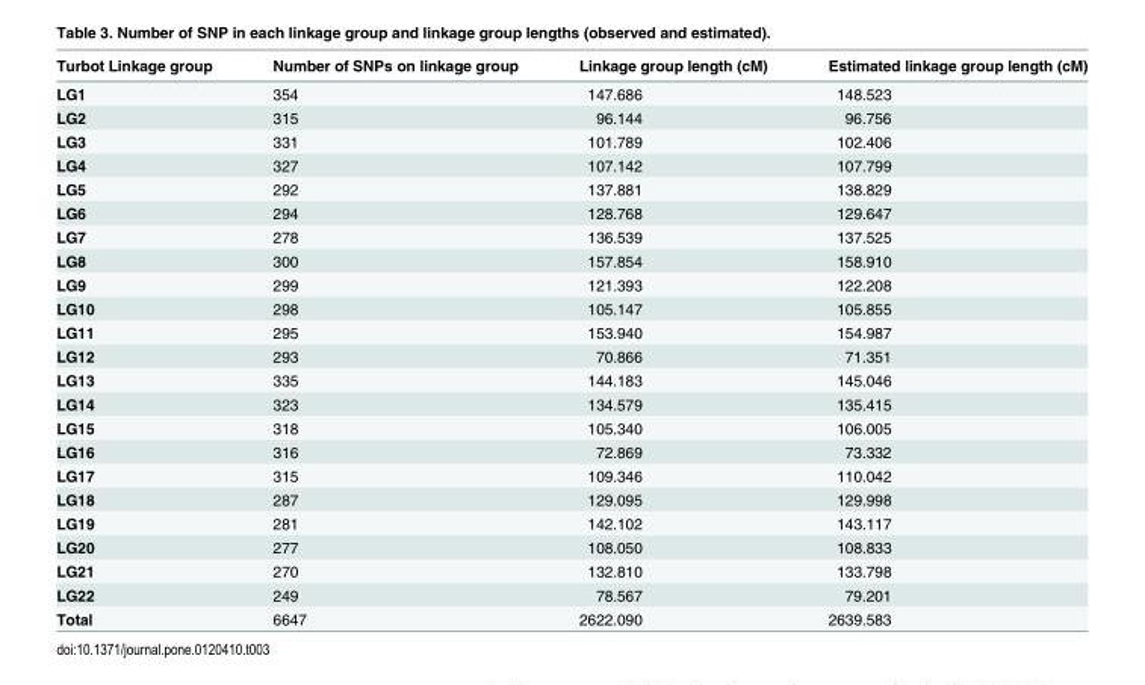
<table><thead><tr><td>Turbot Linkage group</td><td>Number of SNPs on linkage group</td><td>Linkage group length (cM)</td><td>Estimated linkage group length (cM)</td></tr></thead><tbody><tr><td>LG1</td><td>354</td><td>147.686</td><td>148.523</td></tr><tr><td>LG2</td><td>315</td><td>96.144</td><td>96.756</td></tr><tr><td>LG3</td><td>331</td><td>101.789</td><td>102.406</td></tr><tr><td>LG4</td><td>327</td><td>107.142</td><td>107.799</td></tr><tr><td>LG5</td><td>292</td><td>137.881</td><td>138.829</td></tr><tr><td>LG6</td><td>294</td><td>128.768</td><td>129.647</td></tr><tr><td>LG7</td><td>278</td><td>136.539</td><td>137.525</td></tr><tr><td>LG8</td><td>300</td><td>157.854</td><td>158.910</td></tr><tr><td>LG9</td><td>299</td><td>121.393</td><td>122.208</td></tr><tr><td>LG10</td><td>298</td><td>105.147</td><td>105.855</td></tr><tr><td>LG11</td><td>295</td><td>153.940</td><td>154.987</td></tr><tr><td>LG12</td><td>293</td><td>70.866</td><td>71.351</td></tr><tr><td>LG13</td><td>335</td><td>144.183</td><td>145.046</td></tr><tr><td>LG14</td><td>323</td><td>134.579</td><td>135.415</td></tr><tr><td>LG15</td><td>318</td><td>105.340</td><td>106.005</td></tr><tr><td>LG16</td><td>316</td><td>72.869</td><td>73.332</td></tr><tr><td>LG17</td><td>315</td><td>109.346</td><td>110.042</td></tr><tr><td>LG18</td><td>287</td><td>129.095</td><td>129.998</td></tr><tr><td>LG19</td><td>281</td><td>142.102</td><td>143.117</td></tr><tr><td>LG20</td><td>277</td><td>108.050</td><td>108.833</td></tr><tr><td>LG21</td><td>270</td><td>132.810</td><td>133.798</td></tr><tr><td>LG22</td><td>249</td><td>78.567</td><td>79.201</td></tr><tr><td>Total</td><td>6647</td><td>2622.090</td><td>2639.583</td></tr></tbody></table>